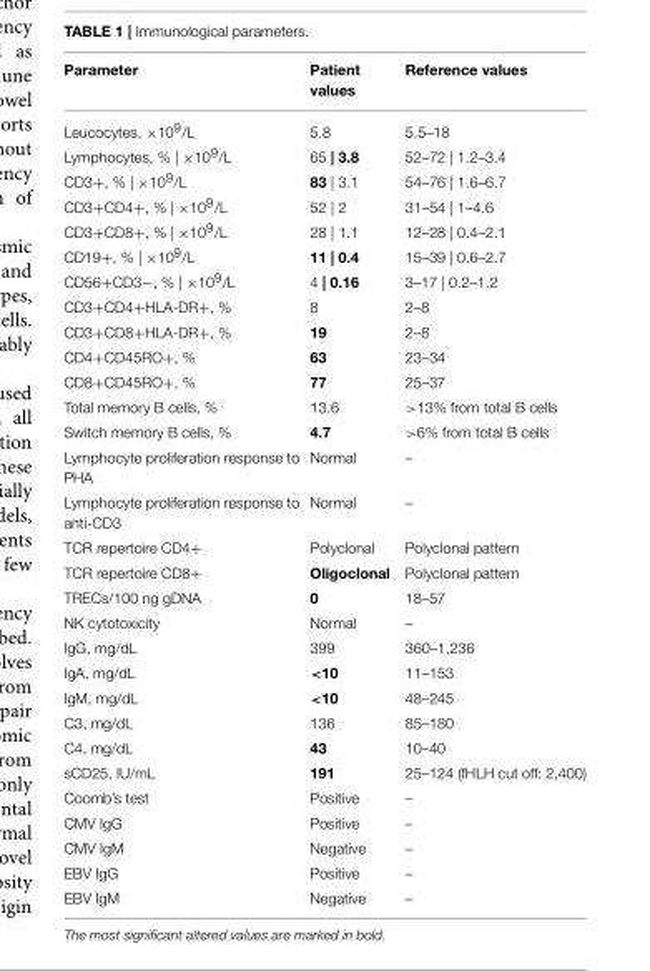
<table><thead><tr><td>Parameter</td><td>Patient values</td><td>Reference values</td></tr></thead><tbody><tr><td>Leucocytes, ×10<sup>9</sup>/L</td><td>5.8</td><td>5.5–18</td></tr><tr><td>Lymphocytes, % | ×10<sup>9</sup>/L</td><td>65 | 3.8</td><td>52–72 | 1.2–3.4</td></tr><tr><td>CD3+, % | ×10<sup>9</sup>/L</td><td>83 | 3.1</td><td>54–76 | 1.6–6.7</td></tr><tr><td>CD3+CD4+, % | ×10<sup>9</sup>/L</td><td>52 | 2</td><td>31–54 | 1–4.6</td></tr><tr><td>CD3+CD8+, % | ×10<sup>9</sup>/L</td><td>28 | 1.1</td><td>12–28 | 0.4–2.1</td></tr><tr><td>CD19+, % | ×10<sup>9</sup>/L</td><td>11 | 0.4</td><td>15–39 | 0.6–2.7</td></tr><tr><td>CD56+CD3−, % | ×10<sup>9</sup>/L</td><td>4 | 0.16</td><td>3–17 | 0.2–1.2</td></tr><tr><td>CD3+CD4+HLA-DR+, %</td><td>8</td><td>2–8</td></tr><tr><td>CD3+CD8+HLA-DR+, %</td><td>19</td><td>2–8</td></tr><tr><td>CD4+CD45RO+, %</td><td>63</td><td>23–34</td></tr><tr><td>CD8+CD45RO+, %</td><td>77</td><td>25–37</td></tr><tr><td>Total memory B cells, %</td><td>13.6</td><td>&gt;13% from total B cells</td></tr><tr><td>Switch memory B cells, %</td><td>4.7</td><td>&gt;6% from total B cells</td></tr><tr><td>Lymphocyte proliferation response to PHA</td><td>Normal</td><td>–</td></tr><tr><td>Lymphocyte proliferation response to anti-CD3</td><td>Normal</td><td>–</td></tr><tr><td>TCR repertoire CD4+</td><td>Polyclonal</td><td>Polyclonal pattern</td></tr><tr><td>TCR repertoire CD8+</td><td>Oligoclonal</td><td>Polyclonal pattern</td></tr><tr><td>TRECs/100 ng gDNA</td><td>0</td><td>18–57</td></tr><tr><td>NK cytotoxicity</td><td>Normal</td><td>–</td></tr><tr><td>IgG, mg/dL</td><td>399</td><td>360–1,236</td></tr><tr><td>IgA, mg/dL</td><td>&lt;10</td><td>11–153</td></tr><tr><td>IgM, mg/dL</td><td>&lt;10</td><td>48–245</td></tr><tr><td>C3, mg/dL</td><td>136</td><td>85–180</td></tr><tr><td>C4, mg/dL</td><td>43</td><td>10–40</td></tr><tr><td>sCD25, IU/mL</td><td>191</td><td>25–124 (fHLH cut off: 2,400)</td></tr><tr><td>Coomb’s test</td><td>Positive</td><td>–</td></tr><tr><td>CMV IgG</td><td>Positive</td><td>–</td></tr><tr><td>CMV IgM</td><td>Negative</td><td>–</td></tr><tr><td>EBV IgG</td><td>Positive</td><td>–</td></tr><tr><td>EBV IgM</td><td>Negative</td><td>–</td></tr></tbody></table>